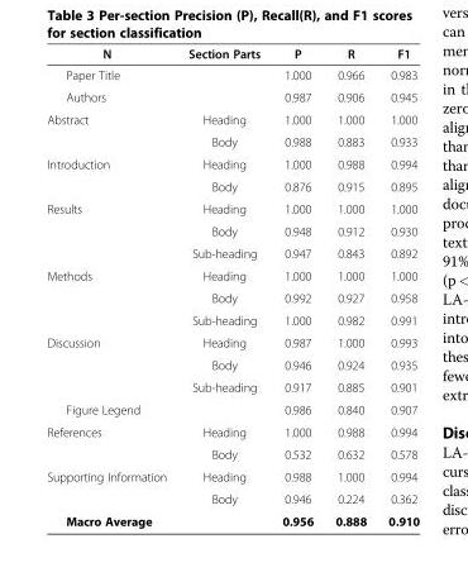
<table><thead><tr><td>N</td><td>Section Parts</td><td>P</td><td>R</td><td>F1</td></tr></thead><tbody><tr><td>Paper Title</td><td></td><td>1.000</td><td>0.966</td><td>0.983</td></tr><tr><td>Authors</td><td></td><td>0.987</td><td>0.906</td><td>0.945</td></tr><tr><td rowspan="2">Abstract</td><td>Heading</td><td>1.000</td><td>1.000</td><td>1.000</td></tr><tr><td>Body</td><td>0.988</td><td>0.883</td><td>0.933</td></tr><tr><td rowspan="2">Introduction</td><td>Heading</td><td>1.000</td><td>0.988</td><td>0.994</td></tr><tr><td>Body</td><td>0.876</td><td>0.915</td><td>0.895</td></tr><tr><td rowspan="3">Results</td><td>Heading</td><td>1.000</td><td>1.000</td><td>1.000</td></tr><tr><td>Body</td><td>0.948</td><td>0.912</td><td>0.930</td></tr><tr><td>Sub-heading</td><td>0.947</td><td>0.843</td><td>0.892</td></tr><tr><td rowspan="3">Methods</td><td>Heading</td><td>1.000</td><td>1.000</td><td>1.000</td></tr><tr><td>Body</td><td>0.992</td><td>0.927</td><td>0.958</td></tr><tr><td>Sub-heading</td><td>1.000</td><td>0.982</td><td>0.991</td></tr><tr><td rowspan="3">Discussion</td><td>Heading</td><td>0.987</td><td>1.000</td><td>0.993</td></tr><tr><td>Body</td><td>0.946</td><td>0.924</td><td>0.935</td></tr><tr><td>Sub-heading</td><td>0.917</td><td>0.885</td><td>0.901</td></tr><tr><td>Figure Legend</td><td></td><td>0.986</td><td>0.840</td><td>0.907</td></tr><tr><td rowspan="2">References</td><td>Heading</td><td>1.000</td><td>0.988</td><td>0.994</td></tr><tr><td>Body</td><td>0.532</td><td>0.632</td><td>0.578</td></tr><tr><td rowspan="2">Supporting Information</td><td>Heading</td><td>0.988</td><td>1.000</td><td>0.994</td></tr><tr><td>Body</td><td>0.946</td><td>0.224</td><td>0.362</td></tr><tr><td>Macro Average</td><td></td><td>0.956</td><td>0.888</td><td>0.910</td></tr></tbody></table>